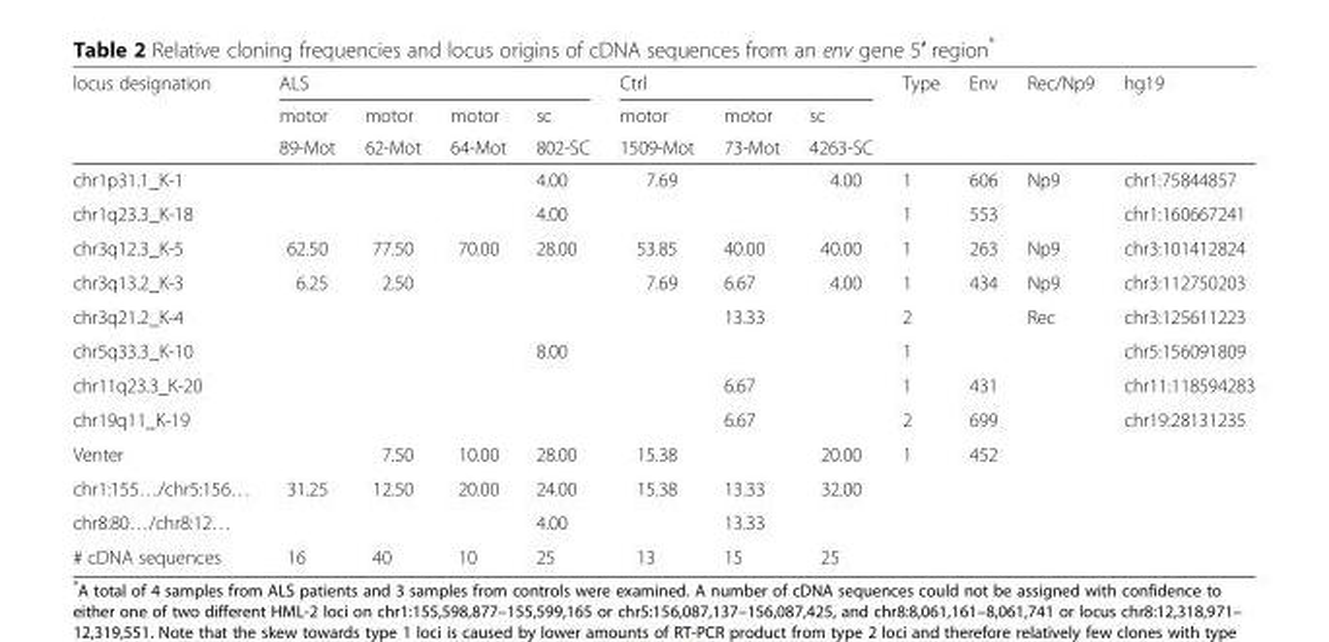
<table><thead><tr><td rowspan="3">locus designation</td><td colspan="4">ALS</td><td colspan="3">Ctrl</td><td rowspan="3">Type</td><td rowspan="3">Env</td><td rowspan="3">Rec/Np9</td><td rowspan="3">hg19</td></tr><tr><td rowspan="2">motor 89-Mot</td><td rowspan="2">motor 62-Mot</td><td rowspan="2">motor 64-Mot</td><td rowspan="2">sc 802-SC</td><td rowspan="2">motor 1509-Mot</td><td rowspan="2">motor 73-Mot</td><td rowspan="2">sc 4263-SC</td></tr><tr></tr></thead><tbody><tr><td>chr1p31.1_K-1</td><td></td><td></td><td></td><td>4.00</td><td>7.69</td><td></td><td>4.00</td><td>1</td><td>606</td><td>Np9</td><td>chr1:75844857</td></tr><tr><td>chr1q23.3_K-18</td><td></td><td></td><td></td><td>4.00</td><td></td><td></td><td></td><td>1</td><td>553</td><td></td><td>chr1:160667241</td></tr><tr><td>chr3q12.3_K-5</td><td>62.50</td><td>77.50</td><td>70.00</td><td>28.00</td><td>53.85</td><td>40.00</td><td>40.00</td><td>1</td><td>263</td><td>Np9</td><td>chr3:101412824</td></tr><tr><td>chr3q13.2_K-3</td><td>6.25</td><td>2.50</td><td></td><td></td><td>7.69</td><td>6.67</td><td>4.00</td><td>1</td><td>434</td><td>Np9</td><td>chr3:112750203</td></tr><tr><td>chr3q21.2_K-4</td><td></td><td></td><td></td><td></td><td></td><td>13.33</td><td></td><td>2</td><td></td><td>Rec</td><td>chr3:125611223</td></tr><tr><td>chr5q33.3_K-10</td><td></td><td></td><td></td><td>8.00</td><td></td><td></td><td></td><td>1</td><td></td><td></td><td>chr5:156091809</td></tr><tr><td>chr11q23.3_K-20</td><td></td><td></td><td></td><td></td><td></td><td>6.67</td><td></td><td>1</td><td>431</td><td></td><td>chr11:118594283</td></tr><tr><td>chr19q11_K-19</td><td></td><td></td><td></td><td></td><td></td><td>6.67</td><td></td><td>2</td><td>699</td><td></td><td>chr19:28131235</td></tr><tr><td>Venter</td><td></td><td>7.50</td><td>10.00</td><td>28.00</td><td>15.38</td><td></td><td>20.00</td><td>1</td><td>452</td><td></td><td></td></tr><tr><td>chr1:155…/chr5:156…</td><td>31.25</td><td>12.50</td><td>20.00</td><td>24.00</td><td>15.38</td><td>13.33</td><td>32.00</td><td></td><td></td><td></td><td></td></tr><tr><td>chr8:80…/chr8:12…</td><td></td><td></td><td></td><td>4.00</td><td></td><td>13.33</td><td></td><td></td><td></td><td></td><td></td></tr><tr><td># cDNA sequences</td><td>16</td><td>40</td><td>10</td><td>25</td><td>13</td><td>15</td><td>25</td><td></td><td></td><td></td><td></td></tr></tbody></table>